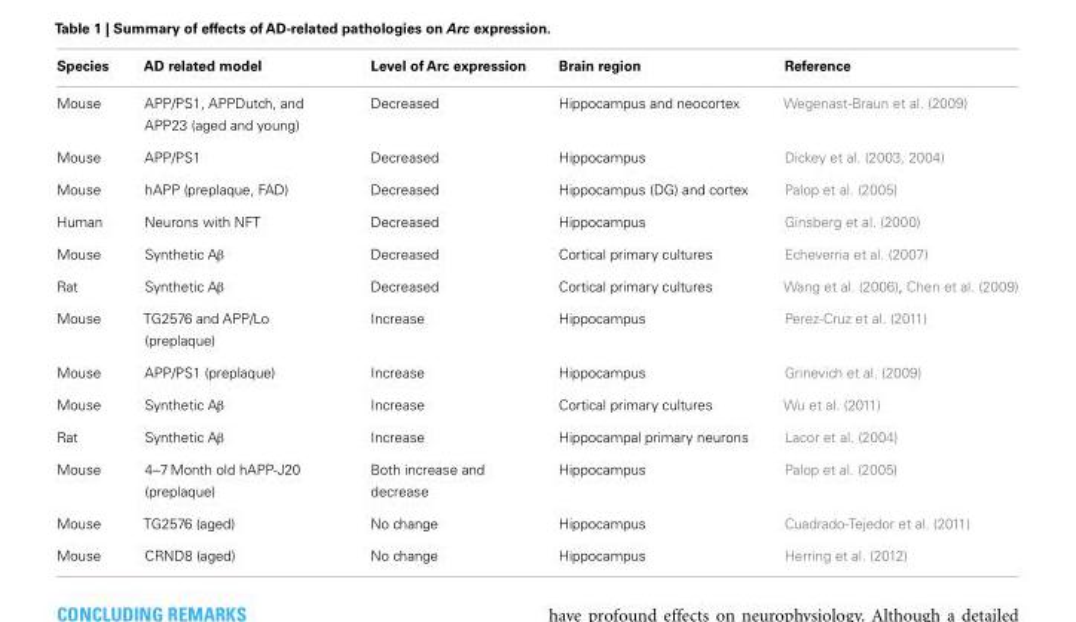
<table><thead><tr><td>Species</td><td>AD related model</td><td>Level of Arc expression</td><td>Brain region</td><td>Reference</td></tr></thead><tbody><tr><td>Mouse</td><td>APP/PS1, APPDutch, and APP23 (aged and young)</td><td>Decreased</td><td>Hippocampus and neocortex</td><td>Wegenast-Braun et al. (2009)</td></tr><tr><td>Mouse</td><td>APP/PS1</td><td>Decreased</td><td>Hippocampus</td><td>Dickey et al. (2003, 2004)</td></tr><tr><td>Mouse</td><td>hAPP (preplaque, FAD)</td><td>Decreased</td><td>Hippocampus (DG) and cortex</td><td>Palop et al. (2005)</td></tr><tr><td>Human</td><td>Neurons with NFT</td><td>Decreased</td><td>Hippocampus</td><td>Ginsberg et al. (2000)</td></tr><tr><td>Mouse</td><td>Synthetic Aβ</td><td>Decreased</td><td>Cortical primary cultures</td><td>Echeverria et al. (2007)</td></tr><tr><td>Rat</td><td>Synthetic Aβ</td><td>Decreased</td><td>Cortical primary cultures</td><td>Wang et al. (2006), Chen et al. (2009)</td></tr><tr><td>Mouse</td><td>TG2576 and APP/Lo (preplaque)</td><td>Increase</td><td>Hippocampus</td><td>Perez-Cruz et al. (2011)</td></tr><tr><td>Mouse</td><td>APP/PS1 (preplaque)</td><td>Increase</td><td>Hippocampus</td><td>Grinevich et al. (2009)</td></tr><tr><td>Mouse</td><td>Synthetic Aβ</td><td>Increase</td><td>Cortical primary cultures</td><td>Wu et al. (2011)</td></tr><tr><td>Rat</td><td>Synthetic Aβ</td><td>Increase</td><td>Hippocampal primary neurons</td><td>Lacor et al. (2004)</td></tr><tr><td>Mouse</td><td>4–7 Month old hAPP-J20 (preplaque)</td><td>Both increase and decrease</td><td>Hippocampus</td><td>Palop et al. (2005)</td></tr><tr><td>Mouse</td><td>TG2576 (aged)</td><td>No change</td><td>Hippocampus</td><td>Cuadrado-Tejedor et al. (2011)</td></tr><tr><td>Mouse</td><td>CRND8 (aged)</td><td>No change</td><td>Hippocampus</td><td>Herring et al. (2012)</td></tr></tbody></table>